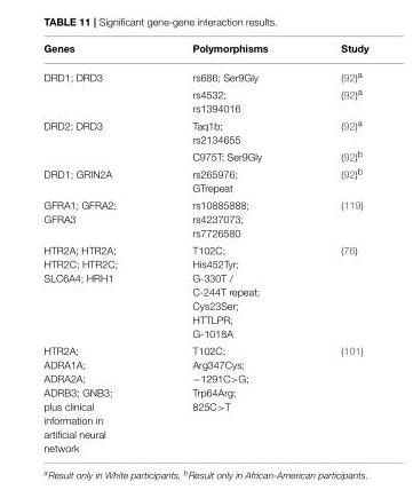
<table><thead><tr><td>Genes</td><td>Polymorphisms</td><td>Study</td></tr></thead><tbody><tr><td rowspan="2">DRD1; DRD3</td><td>rs686; Ser9Gly</td><td>(92)<sup>a</sup></td></tr><tr><td>rs4532; rs1394016</td><td>(92)<sup>a</sup></td></tr><tr><td rowspan="2">DRD2; DRD3</td><td>Taq1b; rs2134655</td><td>(92)<sup>a</sup></td></tr><tr><td>C975T; Ser9Gly</td><td>(92)<sup>b</sup></td></tr><tr><td>DRD1; GRIN2A</td><td>rs265976; GTrepeat</td><td>(92)<sup>b</sup></td></tr><tr><td>GFRA1; GFRA2; GFRA3</td><td>rs10885888; rs4237073; rs7726580</td><td>(119)</td></tr><tr><td>HTR2A; HTR2A; HTR2C; HTR2C; SLC6A4; HRH1</td><td>T102C; His452Tyr; G-330T / C-244T repeat; Cys23Ser; HTTLPR; G-1018A</td><td>(76)</td></tr><tr><td>HTR2A; ADRA1A; ADRA2A; ADRB3; GNB3; plus clinical information in artificial neural network</td><td>T102C; Arg347Cys; −1291C&gt;G; Trp64Arg; 825C&gt;T</td><td>(101)</td></tr></tbody></table>